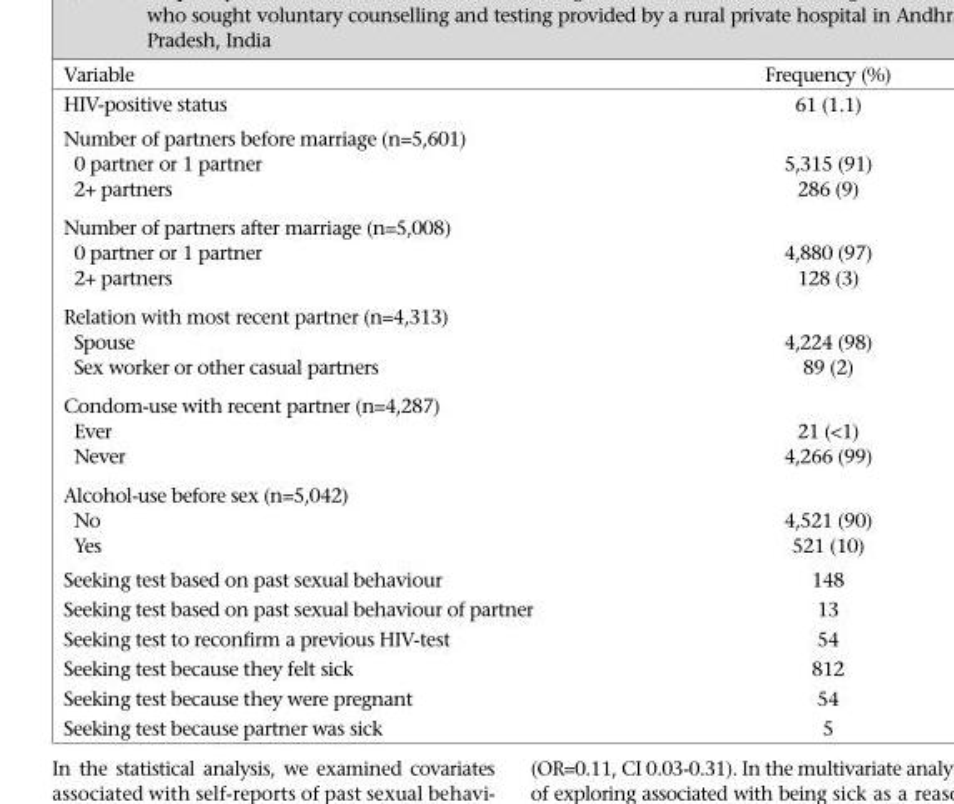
<table><thead><tr><td>Variable</td><td>Frequency (%)</td></tr></thead><tbody><tr><td>HIV-positive status</td><td>61 (1.1)</td></tr><tr><td colspan="2">Number of partners before marriage (n=5,601)</td></tr><tr><td>0 partner or 1 partner</td><td>5,315 (91)</td></tr><tr><td>2+ partners</td><td>286 (9)</td></tr><tr><td colspan="2">Number of partners after marriage (n=5,008)</td></tr><tr><td>0 partner or 1 partner</td><td>4,880 (97)</td></tr><tr><td>2+ partners</td><td>128 (3)</td></tr><tr><td colspan="2">Relation with most recent partner (n=4,313)</td></tr><tr><td>Spouse</td><td>4,224 (98)</td></tr><tr><td>Sex worker or other casual partners</td><td>89 (2)</td></tr><tr><td colspan="2">Condom-use with recent partner (n=4,287)</td></tr><tr><td>Ever</td><td>21 (&lt;1)</td></tr><tr><td>Never</td><td>4,266 (99)</td></tr><tr><td colspan="2">Alcohol-use before sex (n=5,042)</td></tr><tr><td>No</td><td>4,521 (90)</td></tr><tr><td>Yes</td><td>521 (10)</td></tr><tr><td>Seeking test based on past sexual behaviour</td><td>148</td></tr><tr><td>Seeking test based on past sexual behaviour of partner</td><td>13</td></tr><tr><td>Seeking test to reconfirm a previous HIV-test</td><td>54</td></tr><tr><td>Seeking test because they felt sick</td><td>812</td></tr><tr><td>Seeking test because they were pregnant</td><td>54</td></tr><tr><td>Seeking test because partner was sick</td><td>5</td></tr></tbody></table>